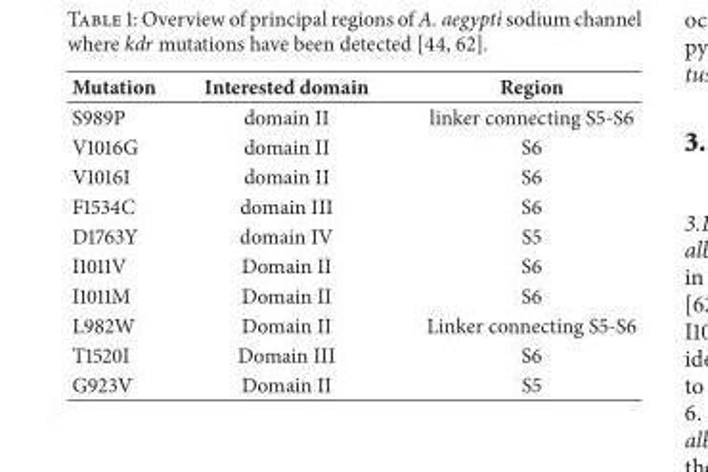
<table><thead><tr><td>Mutation</td><td>Interested domain</td><td>Region</td></tr></thead><tbody><tr><td>S989P</td><td>domain II</td><td>linker connecting S5-S6</td></tr><tr><td>V1016G</td><td>domain II</td><td>S6</td></tr><tr><td>V1016I</td><td>domain II</td><td>S6</td></tr><tr><td>F1534C</td><td>domain III</td><td>S6</td></tr><tr><td>D1763Y</td><td>domain IV</td><td>S5</td></tr><tr><td>I1011V</td><td>Domain II</td><td>S6</td></tr><tr><td>I1011M</td><td>Domain II</td><td>S6</td></tr><tr><td>L982W</td><td>Domain II</td><td>Linker connecting S5-S6</td></tr><tr><td>T1520I</td><td>Domain III</td><td>S6</td></tr><tr><td>G923V</td><td>Domain II</td><td>S5</td></tr></tbody></table>